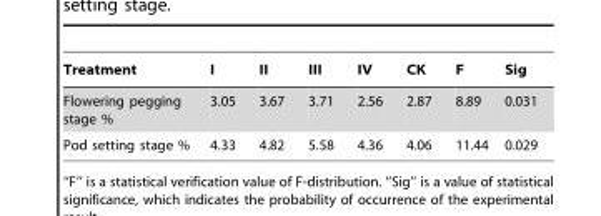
<table><thead><tr><td>Treatment</td><td>I</td><td>II</td><td>III</td><td>IV</td><td>CK</td><td>F</td><td>Sig</td></tr></thead><tbody><tr><td>Flowering pegging stage %</td><td>3.05</td><td>3.67</td><td>3.71</td><td>2.56</td><td>2.87</td><td>8.89</td><td>0.031</td></tr><tr><td>Pod setting stage %</td><td>4.33</td><td>4.82</td><td>5.58</td><td>4.36</td><td>4.06</td><td>11.44</td><td>0.029</td></tr></tbody></table>